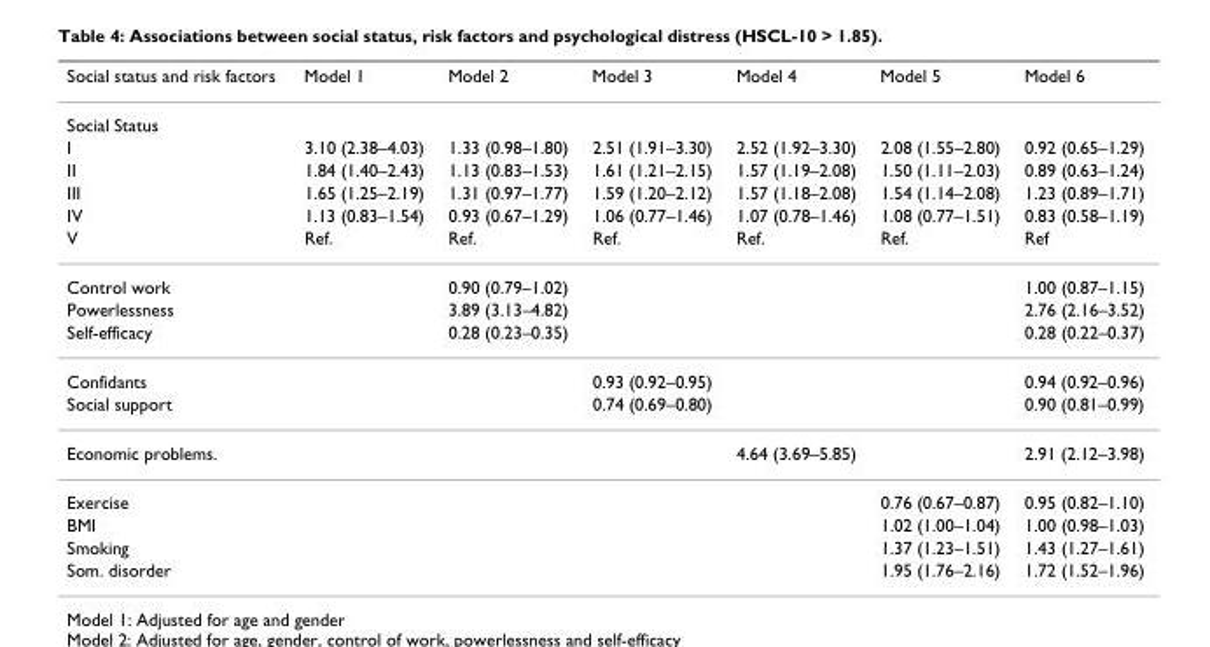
<table><thead><tr><td>Social status and risk factors</td><td>Model 1</td><td>Model 2</td><td>Model 3</td><td>Model 4</td><td>Model 5</td><td>Model 6</td></tr></thead><tbody><tr><td colspan="7">Social Status</td></tr><tr><td>I</td><td>3.10 (2.38–4.03)</td><td>1.33 (0.98–1.80)</td><td>2.51 (1.91–3.30)</td><td>2.52 (1.92–3.30)</td><td>2.08 (1.55–2.80)</td><td>0.92 (0.65–1.29)</td></tr><tr><td>II</td><td>1.84 (1.40–2.43)</td><td>1.13 (0.83–1.53)</td><td>1.61 (1.21–2.15)</td><td>1.57 (1.19–2.08)</td><td>1.50 (1.11–2.03)</td><td>0.89 (0.63–1.24)</td></tr><tr><td>III</td><td>1.65 (1.25–2.19)</td><td>1.31 (0.97–1.77)</td><td>1.59 (1.20–2.12)</td><td>1.57 (1.18–2.08)</td><td>1.54 (1.14–2.08)</td><td>1.23 (0.89–1.71)</td></tr><tr><td>IV</td><td>1.13 (0.83–1.54)</td><td>0.93 (0.67–1.29)</td><td>1.06 (0.77–1.46)</td><td>1.07 (0.78–1.46)</td><td>1.08 (0.77–1.51)</td><td>0.83 (0.58–1.19)</td></tr><tr><td>V</td><td>Ref.</td><td>Ref.</td><td>Ref.</td><td>Ref.</td><td>Ref.</td><td>Ref</td></tr><tr><td>Control work</td><td></td><td>0.90 (0.79–1.02)</td><td></td><td></td><td></td><td>1.00 (0.87–1.15)</td></tr><tr><td>Powerlessness</td><td></td><td>3.89 (3.13–4.82)</td><td></td><td></td><td></td><td>2.76 (2.16–3.52)</td></tr><tr><td>Self-efficacy</td><td></td><td>0.28 (0.23–0.35)</td><td></td><td></td><td></td><td>0.28 (0.22–0.37)</td></tr><tr><td>Confidants</td><td></td><td></td><td>0.93 (0.92–0.95)</td><td></td><td></td><td>0.94 (0.92–0.96)</td></tr><tr><td>Social support</td><td></td><td></td><td>0.74 (0.69–0.80)</td><td></td><td></td><td>0.90 (0.81–0.99)</td></tr><tr><td>Economic problems.</td><td></td><td></td><td></td><td>4.64 (3.69–5.85)</td><td></td><td>2.91 (2.12–3.98)</td></tr><tr><td>Exercise</td><td></td><td></td><td></td><td></td><td>0.76 (0.67–0.87)</td><td>0.95 (0.82–1.10)</td></tr><tr><td>BMI</td><td></td><td></td><td></td><td></td><td>1.02 (1.00–1.04)</td><td>1.00 (0.98–1.03)</td></tr><tr><td>Smoking</td><td></td><td></td><td></td><td></td><td>1.37 (1.23–1.51)</td><td>1.43 (1.27–1.61)</td></tr><tr><td>Som. disorder</td><td></td><td></td><td></td><td></td><td>1.95 (1.76–2.16)</td><td>1.72 (1.52–1.96)</td></tr></tbody></table>